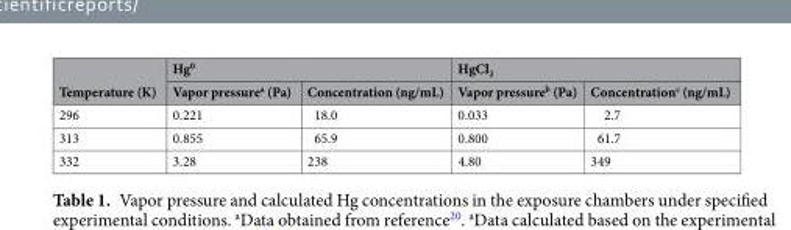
<table><thead><tr><td rowspan="2">Temperature (K)</td><td colspan="2">Hg<sup>0</sup></td><td colspan="2">HgCl<sub>2</sub></td></tr><tr><td>Vapor pressure<sup>a</sup> (Pa)</td><td>Concentration (ng/mL)</td><td>Vapor pressure<sup>b</sup> (Pa)</td><td>Concentration<sup>c</sup> (ng/mL)</td></tr></thead><tbody><tr><td>296</td><td>0.221</td><td>18.0</td><td>0.033</td><td>2.7</td></tr><tr><td>313</td><td>0.855</td><td>65.9</td><td>0.800</td><td>61.7</td></tr><tr><td>332</td><td>3.28</td><td>238</td><td>4.80</td><td>349</td></tr></tbody></table>